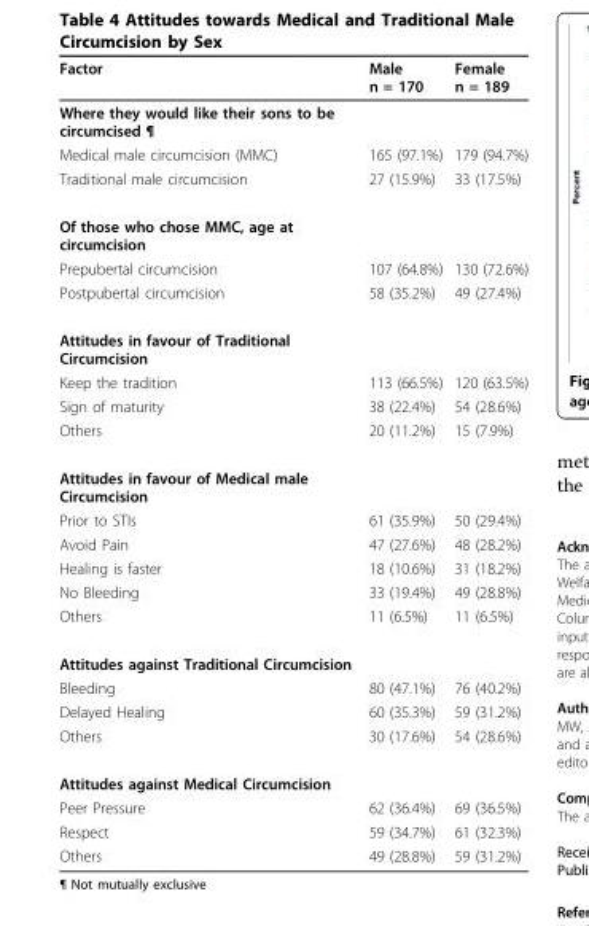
<table><thead><tr><td>Factor</td><td>Male n = 170</td><td>Female n = 189</td></tr></thead><tbody><tr><td colspan="3">Where they would like their sons to be circumcised ¶</td></tr><tr><td>Medical male circumcision (MMC)</td><td>165 (97.1%)</td><td>179 (94.7%)</td></tr><tr><td>Traditional male circumcision</td><td>27 (15.9%)</td><td>33 (17.5%)</td></tr><tr><td colspan="3">Of those who chose MMC, age at circumcision</td></tr><tr><td>Prepubertal circumcision</td><td>107 (64.8%)</td><td>130 (72.6%)</td></tr><tr><td>Postpubertal circumcision</td><td>58 (35.2%)</td><td>49 (27.4%)</td></tr><tr><td colspan="3">Attitudes in favour of Traditional Circumcision</td></tr><tr><td>Keep the tradition</td><td>113 (66.5%)</td><td>120 (63.5%)</td></tr><tr><td>Sign of maturity</td><td>38 (22.4%)</td><td>54 (28.6%)</td></tr><tr><td>Others</td><td>20 (11.2%)</td><td>15 (7.9%)</td></tr><tr><td colspan="3">Attitudes in favour of Medical male Circumcision</td></tr><tr><td>Prior to STIs</td><td>61 (35.9%)</td><td>50 (29.4%)</td></tr><tr><td>Avoid Pain</td><td>47 (27.6%)</td><td>48 (28.2%)</td></tr><tr><td>Healing is faster</td><td>18 (10.6%)</td><td>31 (18.2%)</td></tr><tr><td>No Bleeding</td><td>33 (19.4%)</td><td>49 (28.8%)</td></tr><tr><td>Others</td><td>11 (6.5%)</td><td>11 (6.5%)</td></tr><tr><td colspan="3">Attitudes against Traditional Circumcision</td></tr><tr><td>Bleeding</td><td>80 (47.1%)</td><td>76 (40.2%)</td></tr><tr><td>Delayed Healing</td><td>60 (35.3%)</td><td>59 (31.2%)</td></tr><tr><td>Others</td><td>30 (17.6%)</td><td>54 (28.6%)</td></tr><tr><td colspan="3">Attitudes against Medical Circumcision</td></tr><tr><td>Peer Pressure</td><td>62 (36.4%)</td><td>69 (36.5%)</td></tr><tr><td>Respect</td><td>59 (34.7%)</td><td>61 (32.3%)</td></tr><tr><td>Others</td><td>49 (28.8%)</td><td>59 (31.2%)</td></tr></tbody></table>